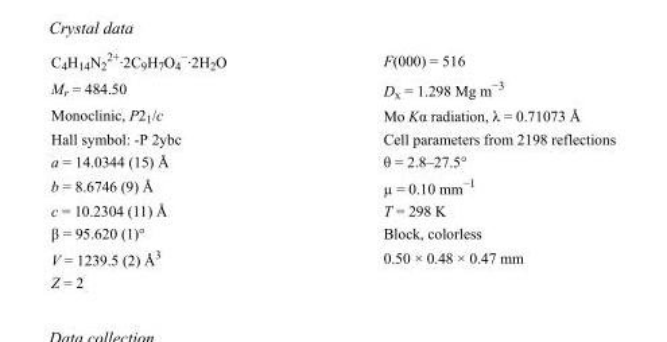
<table><tbody><tr><td>C<sub>4</sub>H<sub>14</sub>N<sub>2</sub> <sup>2+</sup>·2C<sub>9</sub>H<sub>7</sub>O<sub>4</sub> <sup>−</sup>·2H<sub>2</sub>O</td><td>F(000) = 516</td></tr><tr><td>M<sub>r</sub> = 484.50</td><td>D<sub>x</sub> = 1.298 Mg m<sup>−3</sup></td></tr><tr><td>Monoclinic, P2<sub>1</sub>/c</td><td>Mo Kα radiation, λ = 0.71073 Å</td></tr><tr><td>Hall symbol: -P 2ybc</td><td>Cell parameters from 2198 reflections</td></tr><tr><td>a = 14.0344 (15) Å</td><td>θ = 2.8–27.5°</td></tr><tr><td>b = 8.6746 (9) Å</td><td>µ = 0.10 mm<sup>−1</sup></td></tr><tr><td>c = 10.2304 (11) Å</td><td>T = 298 K</td></tr><tr><td>β = 95.620 (1)°</td><td>Block, colorless</td></tr><tr><td>V = 1239.5 (2) Å<sup>3</sup></td><td>0.50 × 0.48 × 0.47 mm</td></tr><tr><td>Z = 2</td><td></td></tr></tbody></table>